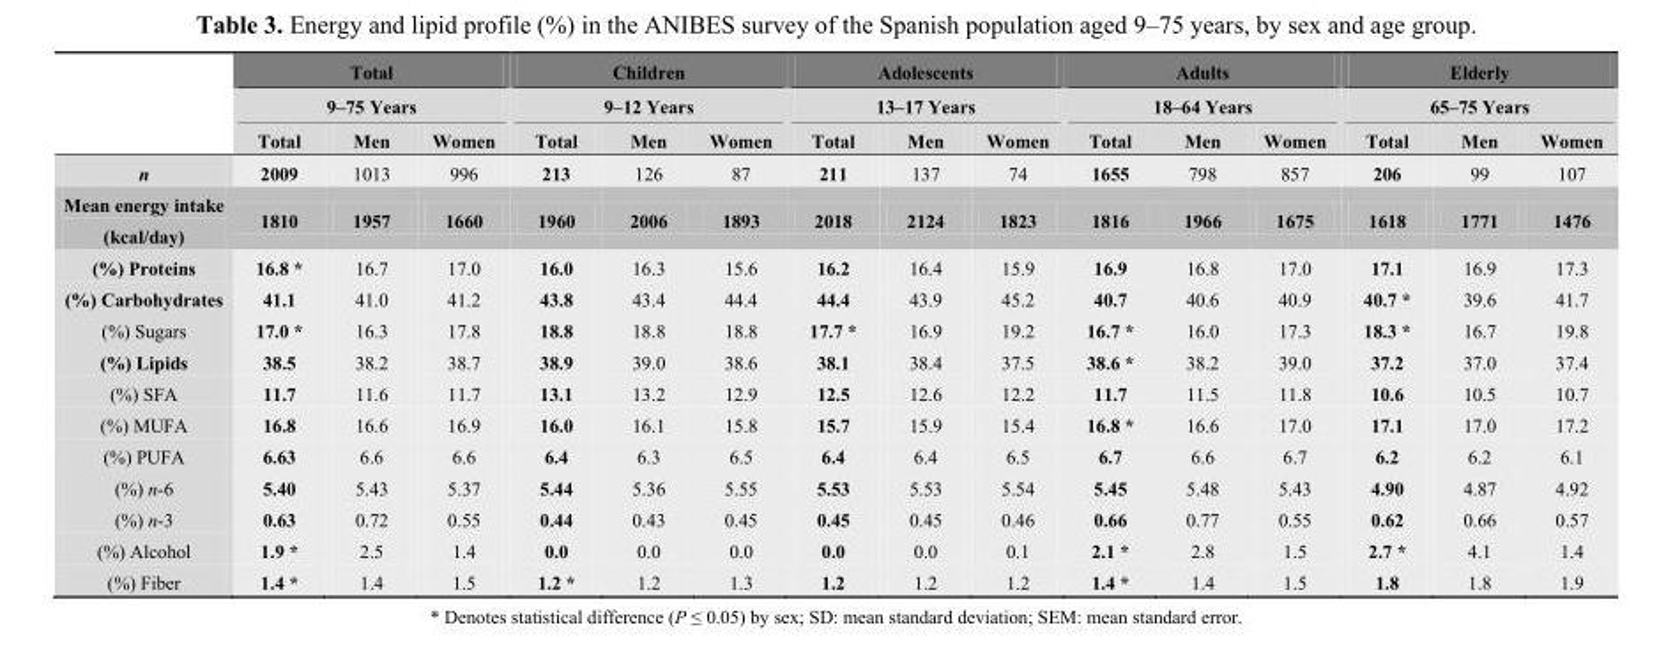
<table><thead><tr><td rowspan="3"></td><td rowspan="2" colspan="3">Total 9–75 Years</td><td rowspan="2" colspan="3">Children 9–12 Years</td><td rowspan="2" colspan="3">Adolescents 13–17 Years</td><td rowspan="2" colspan="3">Adults 18–64 Years</td><td rowspan="2" colspan="3">Elderly 65–75 Years</td></tr><tr></tr><tr><td>Total</td><td>Men</td><td>Women</td><td>Total</td><td>Men</td><td>Women</td><td>Total</td><td>Men</td><td>Women</td><td>Total</td><td>Men</td><td>Women</td><td>Total</td><td>Men</td><td>Women</td></tr></thead><tbody><tr><td>n</td><td>2009</td><td>1013</td><td>996</td><td>213</td><td>126</td><td>87</td><td>211</td><td>137</td><td>74</td><td>1655</td><td>798</td><td>857</td><td>206</td><td>99</td><td>107</td></tr><tr><td>Mean energy intake (kcal/day)</td><td>1810</td><td>1957</td><td>1660</td><td>1960</td><td>2006</td><td>1893</td><td>2018</td><td>2124</td><td>1823</td><td>1816</td><td>1966</td><td>1675</td><td>1618</td><td>1771</td><td>1476</td></tr><tr><td>(%) Proteins</td><td>16.8 *</td><td>16.7</td><td>17.0</td><td>16.0</td><td>16.3</td><td>15.6</td><td>16.2</td><td>16.4</td><td>15.9</td><td>16.9</td><td>16.8</td><td>17.0</td><td>17.1</td><td>16.9</td><td>17.3</td></tr><tr><td>(%) Carbohydrates</td><td>41.1</td><td>41.0</td><td>41.2</td><td>43.8</td><td>43.4</td><td>44.4</td><td>44.4</td><td>43.9</td><td>45.2</td><td>40.7</td><td>40.6</td><td>40.9</td><td>40.7 *</td><td>39.6</td><td>41.7</td></tr><tr><td>(%) Sugars</td><td>17.0 *</td><td>16.3</td><td>17.8</td><td>18.8</td><td>18.8</td><td>18.8</td><td>17.7 *</td><td>16.9</td><td>19.2</td><td>16.7 *</td><td>16.0</td><td>17.3</td><td>18.3 *</td><td>16.7</td><td>19.8</td></tr><tr><td>(%) Lipids</td><td>38.5</td><td>38.2</td><td>38.7</td><td>38.9</td><td>39.0</td><td>38.6</td><td>38.1</td><td>38.4</td><td>37.5</td><td>38.6 *</td><td>38.2</td><td>39.0</td><td>37.2</td><td>37.0</td><td>37.4</td></tr><tr><td>(%) SFA</td><td>11.7</td><td>11.6</td><td>11.7</td><td>13.1</td><td>13.2</td><td>12.9</td><td>12.5</td><td>12.6</td><td>12.2</td><td>11.7</td><td>11.5</td><td>11.8</td><td>10.6</td><td>10.5</td><td>10.7</td></tr><tr><td>(%) MUFA</td><td>16.8</td><td>16.6</td><td>16.9</td><td>16.0</td><td>16.1</td><td>15.8</td><td>15.7</td><td>15.9</td><td>15.4</td><td>16.8 *</td><td>16.6</td><td>17.0</td><td>17.1</td><td>17.0</td><td>17.2</td></tr><tr><td>(%) PUFA</td><td>6.63</td><td>6.6</td><td>6.6</td><td>6.4</td><td>6.3</td><td>6.5</td><td>6.4</td><td>6.4</td><td>6.5</td><td>6.7</td><td>6.6</td><td>6.7</td><td>6.2</td><td>6.2</td><td>6.1</td></tr><tr><td>(%) n-6</td><td>5.40</td><td>5.43</td><td>5.37</td><td>5.44</td><td>5.36</td><td>5.55</td><td>5.53</td><td>5.53</td><td>5.54</td><td>5.45</td><td>5.48</td><td>5.43</td><td>4.90</td><td>4.87</td><td>4.92</td></tr><tr><td>(%) n-3</td><td>0.63</td><td>0.72</td><td>0.55</td><td>0.44</td><td>0.43</td><td>0.45</td><td>0.45</td><td>0.45</td><td>0.46</td><td>0.66</td><td>0.77</td><td>0.55</td><td>0.62</td><td>0.66</td><td>0.57</td></tr><tr><td>(%) Alcohol</td><td>1.9 *</td><td>2.5</td><td>1.4</td><td>0.0</td><td>0.0</td><td>0.0</td><td>0.0</td><td>0.0</td><td>0.1</td><td>2.1 *</td><td>2.8</td><td>1.5</td><td>2.7 *</td><td>4.1</td><td>1.4</td></tr><tr><td>(%) Fiber</td><td>1.4 *</td><td>1.4</td><td>1.5</td><td>1.2 *</td><td>1.2</td><td>1.3</td><td>1.2</td><td>1.2</td><td>1.2</td><td>1.4 *</td><td>1.4</td><td>1.5</td><td>1.8</td><td>1.8</td><td>1.9</td></tr></tbody></table>